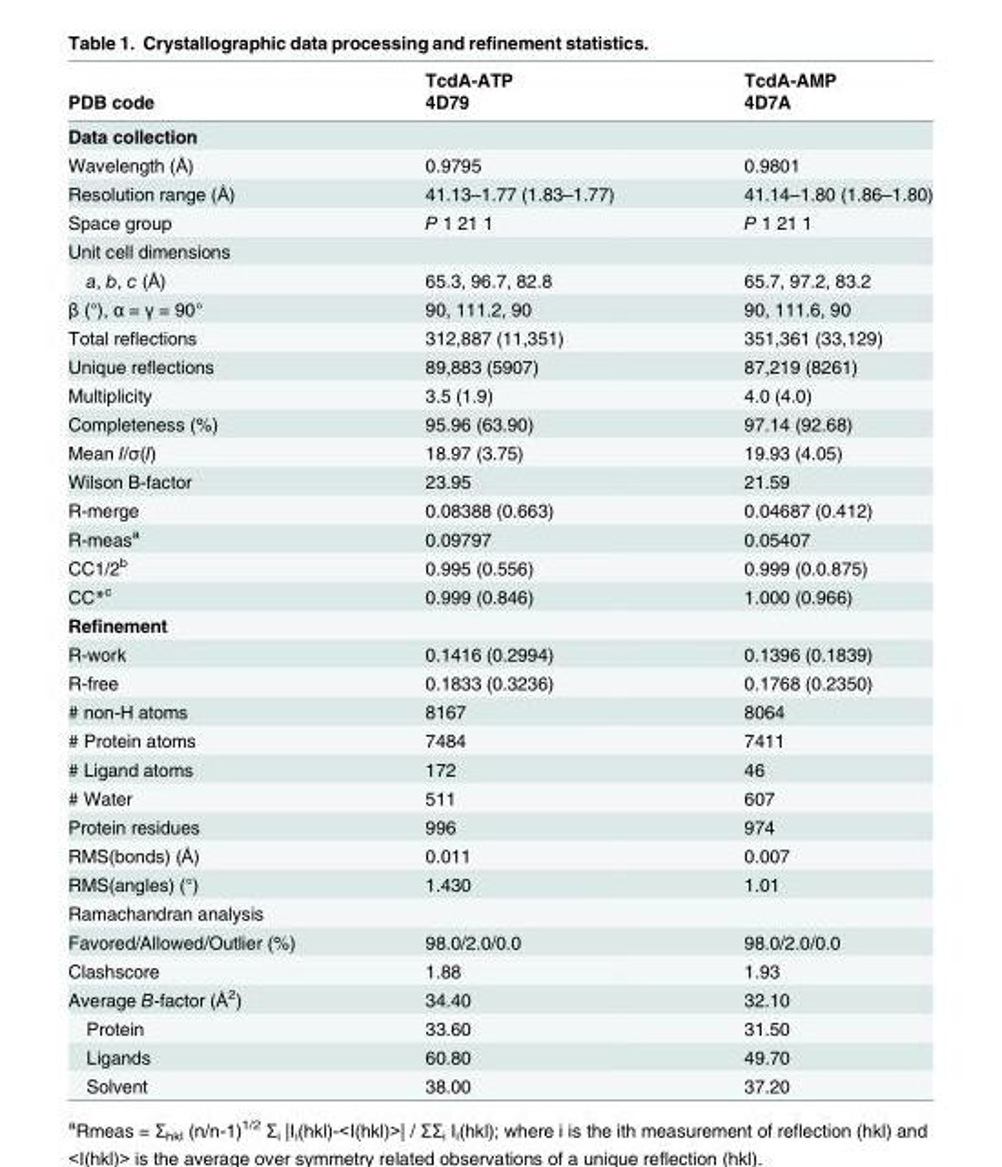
<table><thead><tr><td rowspan="2">PDB code</td><td rowspan="2">TcdA-ATP 4D79</td><td rowspan="2">TcdA-AMP 4D7A</td></tr><tr></tr></thead><tbody><tr><td colspan="3">Data collection</td></tr><tr><td>Wavelength (Å)</td><td>0.9795</td><td>0.9801</td></tr><tr><td>Resolution range (Å)</td><td>41.13–1.77 (1.83–1.77)</td><td>41.14–1.80 (1.86–1.80)</td></tr><tr><td>Space group</td><td>P 1 21 1</td><td>P 1 21 1</td></tr><tr><td colspan="3">Unit cell dimensions</td></tr><tr><td>a, b, c (Å)</td><td>65.3, 96.7, 82.8</td><td>65.7, 97.2, 83.2</td></tr><tr><td>β (°), α = γ = 90°</td><td>90, 111.2, 90</td><td>90, 111.6, 90</td></tr><tr><td>Total reflections</td><td>312,887 (11,351)</td><td>351,361 (33,129)</td></tr><tr><td>Unique reflections</td><td>89,883 (5907)</td><td>87,219 (8261)</td></tr><tr><td>Multiplicity</td><td>3.5 (1.9)</td><td>4.0 (4.0)</td></tr><tr><td>Completeness (%)</td><td>95.96 (63.90)</td><td>97.14 (92.68)</td></tr><tr><td>Mean I/σ(I)</td><td>18.97 (3.75)</td><td>19.93 (4.05)</td></tr><tr><td>Wilson B-factor</td><td>23.95</td><td>21.59</td></tr><tr><td>R-merge</td><td>0.08388 (0.663)</td><td>0.04687 (0.412)</td></tr><tr><td>R-meas<sup>a</sup></td><td>0.09797</td><td>0.05407</td></tr><tr><td>CC1/2<sup>b</sup></td><td>0.995 (0.556)</td><td>0.999 (0.0.875)</td></tr><tr><td>CC*<sup>c</sup></td><td>0.999 (0.846)</td><td>1.000 (0.966)</td></tr><tr><td colspan="3">Refinement</td></tr><tr><td>R-work</td><td>0.1416 (0.2994)</td><td>0.1396 (0.1839)</td></tr><tr><td>R-free</td><td>0.1833 (0.3236)</td><td>0.1768 (0.2350)</td></tr><tr><td># non-H atoms</td><td>8167</td><td>8064</td></tr><tr><td># Protein atoms</td><td>7484</td><td>7411</td></tr><tr><td># Ligand atoms</td><td>172</td><td>46</td></tr><tr><td># Water</td><td>511</td><td>607</td></tr><tr><td>Protein residues</td><td>996</td><td>974</td></tr><tr><td>RMS(bonds) (Å)</td><td>0.011</td><td>0.007</td></tr><tr><td>RMS(angles) (°)</td><td>1.430</td><td>1.01</td></tr><tr><td colspan="3">Ramachandran analysis</td></tr><tr><td>Favored/Allowed/Outlier (%)</td><td>98.0/2.0/0.0</td><td>98.0/2.0/0.0</td></tr><tr><td>Clashscore</td><td>1.88</td><td>1.93</td></tr><tr><td>Average B-factor (Å<sup>2</sup>)</td><td>34.40</td><td>32.10</td></tr><tr><td>Protein</td><td>33.60</td><td>31.50</td></tr><tr><td>Ligands</td><td>60.80</td><td>49.70</td></tr><tr><td>Solvent</td><td>38.00</td><td>37.20</td></tr></tbody></table>